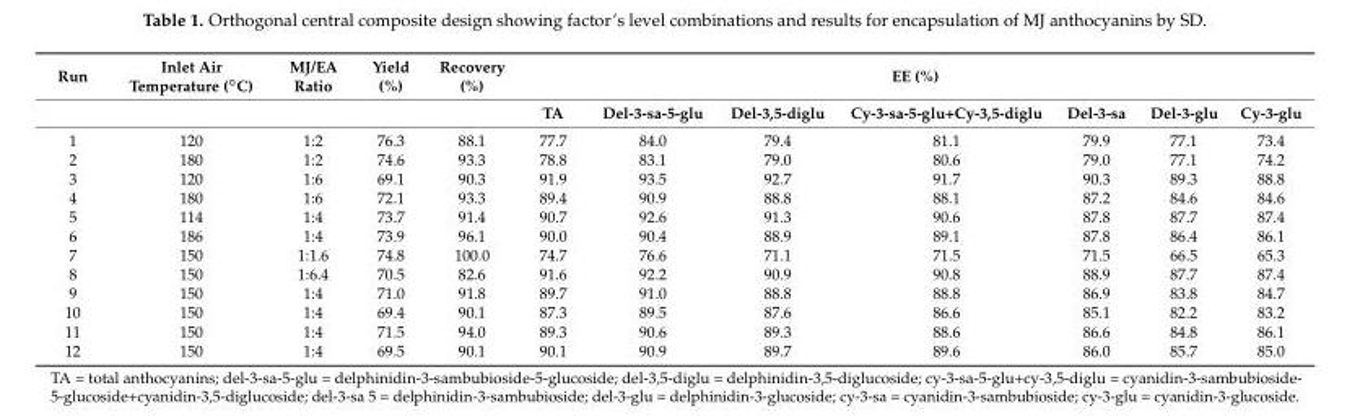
<table><thead><tr><td rowspan="2">Run</td><td rowspan="2">Inlet Air Temperature (◦C)</td><td rowspan="2">MJ/EA Ratio</td><td rowspan="2">Yield (%)</td><td rowspan="2">Recovery (%)</td><td colspan="7">EE (%)</td></tr><tr><td>TA</td><td>Del-3-sa-5-glu</td><td>Del-3,5-diglu</td><td>Cy-3-sa-5-glu+Cy-3,5-diglu</td><td>Del-3-sa</td><td>Del-3-glu</td><td>Cy-3-glu</td></tr></thead><tbody><tr><td>1</td><td>120</td><td>1:2</td><td>76.3</td><td>88.1</td><td>77.7</td><td>84.0</td><td>79.4</td><td>81.1</td><td>79.9</td><td>77.1</td><td>73.4</td></tr><tr><td>2</td><td>180</td><td>1:2</td><td>74.6</td><td>93.3</td><td>78.8</td><td>83.1</td><td>79.0</td><td>80.6</td><td>79.0</td><td>77.1</td><td>74.2</td></tr><tr><td>3</td><td>120</td><td>1:6</td><td>69.1</td><td>90.3</td><td>91.9</td><td>93.5</td><td>92.7</td><td>91.7</td><td>90.3</td><td>89.3</td><td>88.8</td></tr><tr><td>4</td><td>180</td><td>1:6</td><td>72.1</td><td>93.3</td><td>89.4</td><td>90.9</td><td>88.8</td><td>88.1</td><td>87.2</td><td>84.6</td><td>84.6</td></tr><tr><td>5</td><td>114</td><td>1:4</td><td>73.7</td><td>91.4</td><td>90.7</td><td>92.6</td><td>91.3</td><td>90.6</td><td>87.8</td><td>87.7</td><td>87.4</td></tr><tr><td>6</td><td>186</td><td>1:4</td><td>73.9</td><td>96.1</td><td>90.0</td><td>90.4</td><td>88.9</td><td>89.1</td><td>87.8</td><td>86.4</td><td>86.1</td></tr><tr><td>7</td><td>150</td><td>1:1.6</td><td>74.8</td><td>100.0</td><td>74.7</td><td>76.6</td><td>71.1</td><td>71.5</td><td>71.5</td><td>66.5</td><td>65.3</td></tr><tr><td>8</td><td>150</td><td>1:6.4</td><td>70.5</td><td>82.6</td><td>91.6</td><td>92.2</td><td>90.9</td><td>90.8</td><td>88.9</td><td>87.7</td><td>87.4</td></tr><tr><td>9</td><td>150</td><td>1:4</td><td>71.0</td><td>91.8</td><td>89.7</td><td>91.0</td><td>88.8</td><td>88.8</td><td>86.9</td><td>83.8</td><td>84.7</td></tr><tr><td>10</td><td>150</td><td>1:4</td><td>69.4</td><td>90.1</td><td>87.3</td><td>89.5</td><td>87.6</td><td>86.6</td><td>85.1</td><td>82.2</td><td>83.2</td></tr><tr><td>11</td><td>150</td><td>1:4</td><td>71.5</td><td>94.0</td><td>89.3</td><td>90.6</td><td>89.3</td><td>88.6</td><td>86.6</td><td>84.8</td><td>86.1</td></tr><tr><td>12</td><td>150</td><td>1:4</td><td>69.5</td><td>90.1</td><td>90.1</td><td>90.9</td><td>89.7</td><td>89.6</td><td>86.0</td><td>85.7</td><td>85.0</td></tr></tbody></table>